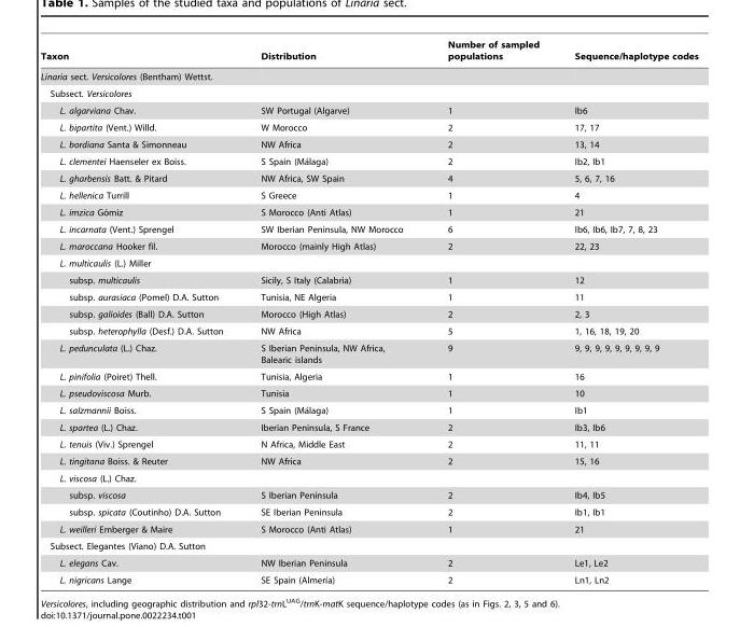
<table><thead><tr><td>Taxon</td><td>Distribution</td><td>Number of sampled populations</td><td>Sequence/haplotype codes</td></tr></thead><tbody><tr><td colspan="4">Linaria sect. Versicolores (Bentham) Wettst.</td></tr><tr><td colspan="4">Subsect. Versicolores</td></tr><tr><td>L. algarviana Chav.</td><td>SW Portugal (Algarve)</td><td>1</td><td>Ib6</td></tr><tr><td>L. bipartita (Vent.) Willd.</td><td>W Morocco</td><td>2</td><td>17, 17</td></tr><tr><td>L. bordiana Santa &amp; Simonneau</td><td>NW Africa</td><td>2</td><td>13, 14</td></tr><tr><td>L. clementei Haenseler ex Boiss.</td><td>S Spain (Ma´laga)</td><td>2</td><td>Ib2, Ib1</td></tr><tr><td>L. gharbensis Batt. &amp; Pitard</td><td>NW Africa, SW Spain</td><td>4</td><td>5, 6, 7, 16</td></tr><tr><td>L. hellenica Turrill</td><td>S Greece</td><td>1</td><td>4</td></tr><tr><td>L. imzica Go´miz</td><td>S Morocco (Anti Atlas)</td><td>1</td><td>21</td></tr><tr><td>L. incarnata (Vent.) Sprengel</td><td>SW Iberian Peninsula, NW Morocco</td><td>6</td><td>Ib6, Ib6, Ib7, 7, 8, 23</td></tr><tr><td>L. maroccana Hooker fil.</td><td>Morocco (mainly High Atlas)</td><td>2</td><td>22, 23</td></tr><tr><td colspan="4">L. multicaulis (L.) Miller</td></tr><tr><td>subsp. multicaulis</td><td>Sicily, S Italy (Calabria)</td><td>1</td><td>12</td></tr><tr><td>subsp. aurasiaca (Pomel) D.A. Sutton</td><td>Tunisia, NE Algeria</td><td>1</td><td>11</td></tr><tr><td>subsp. galioides (Ball) D.A. Sutton</td><td>Morocco (High Atlas)</td><td>2</td><td>2, 3</td></tr><tr><td>subsp. heterophylla (Desf.) D.A. Sutton</td><td>NW Africa</td><td>5</td><td>1, 16, 18, 19, 20</td></tr><tr><td>L. pedunculata (L.) Chaz.</td><td>S Iberian Peninsula, NW Africa, Balearic islands</td><td>9</td><td>9, 9, 9, 9, 9, 9, 9, 9, 9</td></tr><tr><td>L. pinifolia (Poiret) Thell.</td><td>Tunisia, Algeria</td><td>1</td><td>16</td></tr><tr><td>L. pseudoviscosa Murb.</td><td>Tunisia</td><td>1</td><td>10</td></tr><tr><td>L. salzmannii Boiss.</td><td>S Spain (Ma´laga)</td><td>1</td><td>Ib1</td></tr><tr><td>L. spartea (L.) Chaz.</td><td>Iberian Peninsula, S France</td><td>2</td><td>Ib3, Ib6</td></tr><tr><td>L. tenuis (Viv.) Sprengel</td><td>N Africa, Middle East</td><td>2</td><td>11, 11</td></tr><tr><td>L. tingitana Boiss. &amp; Reuter</td><td>NW Africa</td><td>2</td><td>15, 16</td></tr><tr><td colspan="4">L. viscosa (L.) Chaz.</td></tr><tr><td>subsp. viscosa</td><td>S Iberian Peninsula</td><td>2</td><td>Ib4, Ib5</td></tr><tr><td>subsp. spicata (Coutinho) D.A. Sutton</td><td>SE Iberian Peninsula</td><td>2</td><td>Ib1, Ib1</td></tr><tr><td>L. weilleri Emberger &amp; Maire</td><td>S Morocco (Anti Atlas)</td><td>1</td><td>21</td></tr><tr><td colspan="4">Subsect. Elegantes (Viano) D.A. Sutton</td></tr><tr><td>L. elegans Cav.</td><td>NW Iberian Peninsula</td><td>2</td><td>Le1, Le2</td></tr><tr><td>L. nigricans Lange</td><td>SE Spain (Almerı´a)</td><td>2</td><td>Ln1, Ln2</td></tr></tbody></table>